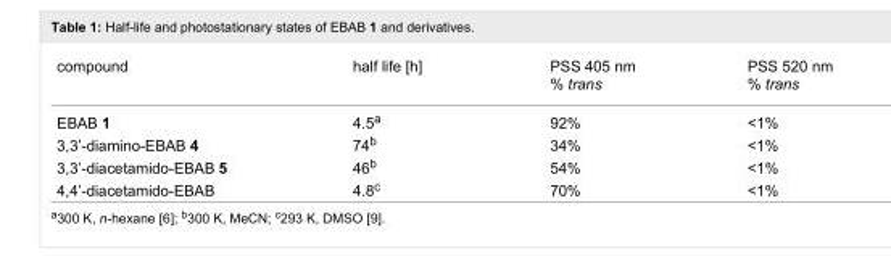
<table><tbody><tr><td>compound</td><td>half life [h]</td><td>PSS 405 nm % trans</td><td>PSS 520 nm % trans</td></tr><tr><td>EBAB 1</td><td>4.5<sup>a</sup></td><td>92%</td><td>&lt;1%</td></tr><tr><td>3,3’-diamino-EBAB 4</td><td>74<sup>b</sup></td><td>34%</td><td>&lt;1%</td></tr><tr><td>3,3’-diacetamido-EBAB 5</td><td>46<sup>b</sup></td><td>54%</td><td>&lt;1%</td></tr><tr><td>4,4’-diacetamido-EBAB</td><td>4.8<sup>c</sup></td><td>70%</td><td>&lt;1%</td></tr></tbody></table>